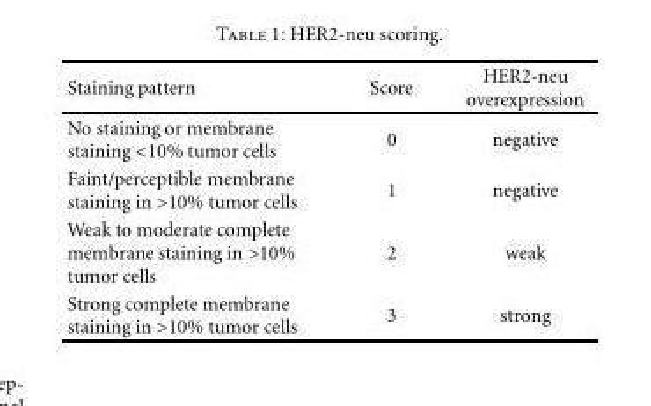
<table><thead><tr><td>Staining pattern</td><td>Score</td><td>HER2-neu overexpression</td></tr></thead><tbody><tr><td>No staining or membrane staining &lt;10% tumor cells</td><td>0</td><td>negative</td></tr><tr><td>Faint/perceptible membrane staining in &gt;10% tumor cells</td><td>1</td><td>negative</td></tr><tr><td>Weak to moderate complete membrane staining in &gt;10% tumor cells</td><td>2</td><td>weak</td></tr><tr><td>Strong complete membrane staining in &gt;10% tumor cells</td><td>3</td><td>strong</td></tr></tbody></table>